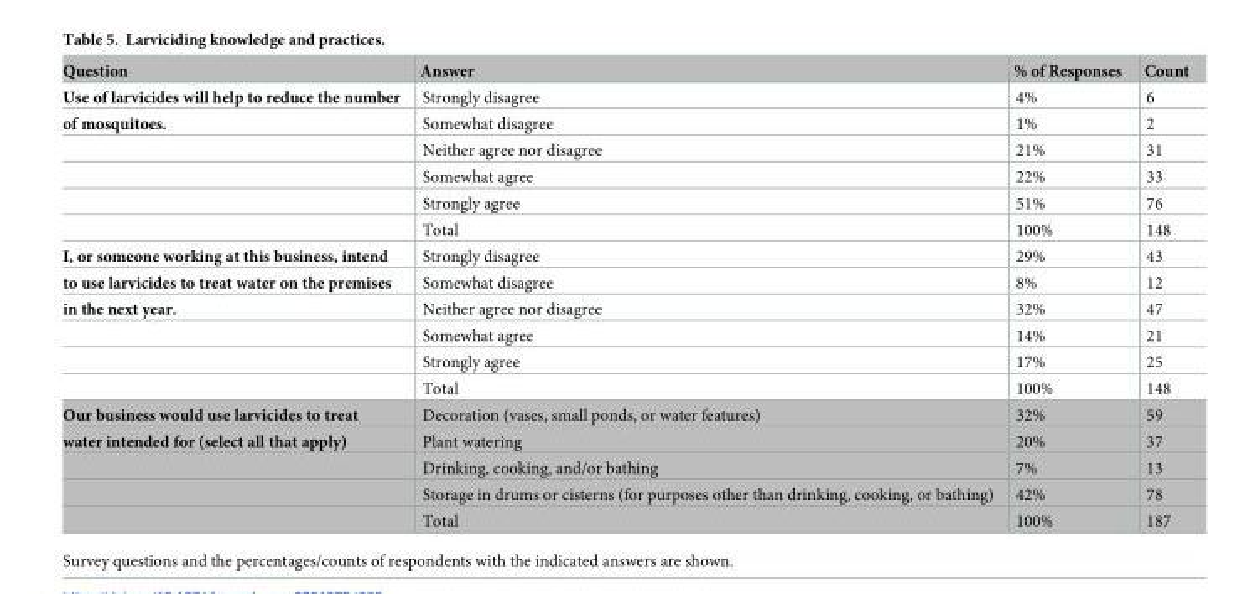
<table><thead><tr><td>Question</td><td>Answer</td><td>% of Responses</td><td>Count</td></tr></thead><tbody><tr><td>Use of larvicides will help to reduce the number</td><td>Strongly disagree</td><td>4%</td><td>6</td></tr><tr><td rowspan="5">of mosquitoes.</td><td>Somewhat disagree</td><td>1%</td><td>2</td></tr><tr><td>Neither agree nor disagree</td><td>21%</td><td>31</td></tr><tr><td>Somewhat agree</td><td>22%</td><td>33</td></tr><tr><td>Strongly agree</td><td>51%</td><td>76</td></tr><tr><td>Total</td><td>100%</td><td>148</td></tr><tr><td>I, or someone working at this business, intend</td><td>Strongly disagree</td><td>29%</td><td>43</td></tr><tr><td>to use larvicides to treat water on the premises</td><td>Somewhat disagree</td><td>8%</td><td>12</td></tr><tr><td rowspan="4">in the next year.</td><td>Neither agree nor disagree</td><td>32%</td><td>47</td></tr><tr><td>Somewhat agree</td><td>14%</td><td>21</td></tr><tr><td>Strongly agree</td><td>17%</td><td>25</td></tr><tr><td>Total</td><td>100%</td><td>148</td></tr><tr><td>Our business would use larvicides to treat</td><td>Decoration (vases, small ponds, or water features)</td><td>32%</td><td>59</td></tr><tr><td rowspan="4">water intended for (select all that apply)</td><td>Plant watering</td><td>20%</td><td>37</td></tr><tr><td>Drinking, cooking, and/or bathing</td><td>7%</td><td>13</td></tr><tr><td>Storage in drums or cisterns (for purposes other than drinking, cooking, or bathing)</td><td>42%</td><td>78</td></tr><tr><td>Total</td><td>100%</td><td>187</td></tr></tbody></table>